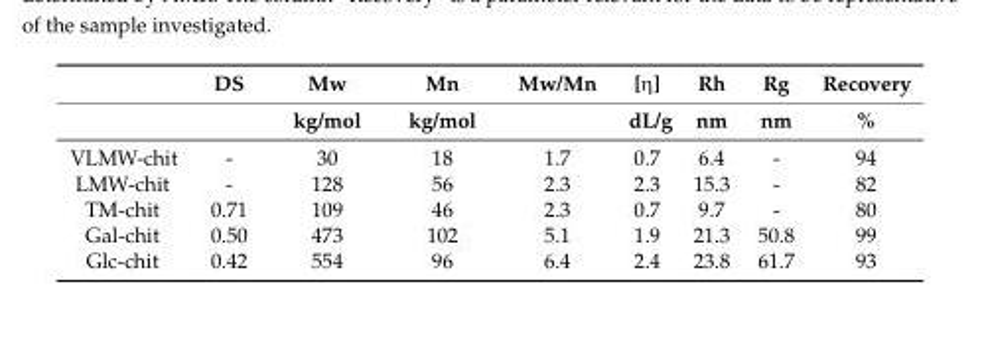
<table><thead><tr><td rowspan="2"></td><td rowspan="2">DS</td><td rowspan="2">Mw kg/mol</td><td rowspan="2">Mn kg/mol</td><td rowspan="2">Mw/Mn</td><td rowspan="2">[η] dL/g</td><td rowspan="2">Rh nm</td><td rowspan="2">Rg nm</td><td rowspan="2">Recovery %</td></tr><tr></tr></thead><tbody><tr><td>VLMW-chit</td><td>-</td><td>30</td><td>18</td><td>1.7</td><td>0.7</td><td>6.4</td><td>-</td><td>94</td></tr><tr><td>LMW-chit</td><td>-</td><td>128</td><td>56</td><td>2.3</td><td>2.3</td><td>15.3</td><td>-</td><td>82</td></tr><tr><td>TM-chit</td><td>0.71</td><td>109</td><td>46</td><td>2.3</td><td>0.7</td><td>9.7</td><td>-</td><td>80</td></tr><tr><td>Gal-chit</td><td>0.50</td><td>473</td><td>102</td><td>5.1</td><td>1.9</td><td>21.3</td><td>50.8</td><td>99</td></tr><tr><td>Glc-chit</td><td>0.42</td><td>554</td><td>96</td><td>6.4</td><td>2.4</td><td>23.8</td><td>61.7</td><td>93</td></tr></tbody></table>